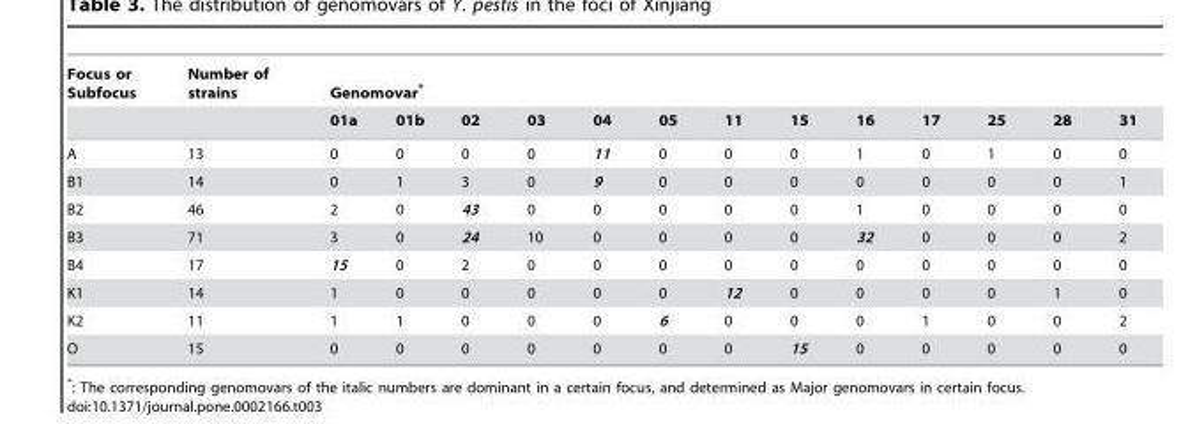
<table><thead><tr><td rowspan="2">Focus or Subfocus</td><td rowspan="2">Number of strains</td><td colspan="13">Genomovar*</td></tr><tr><td>01a</td><td>01b</td><td>02</td><td>03</td><td>04</td><td>05</td><td>11</td><td>15</td><td>16</td><td>17</td><td>25</td><td>28</td><td>31</td></tr></thead><tbody><tr><td>A</td><td>13</td><td>0</td><td>0</td><td>0</td><td>0</td><td>11</td><td>0</td><td>0</td><td>0</td><td>1</td><td>0</td><td>1</td><td>0</td><td>0</td></tr><tr><td>B1</td><td>14</td><td>0</td><td>1</td><td>3</td><td>0</td><td>9</td><td>0</td><td>0</td><td>0</td><td>0</td><td>0</td><td>0</td><td>0</td><td>1</td></tr><tr><td>B2</td><td>46</td><td>2</td><td>0</td><td>43</td><td>0</td><td>0</td><td>0</td><td>0</td><td>0</td><td>1</td><td>0</td><td>0</td><td>0</td><td>0</td></tr><tr><td>B3</td><td>71</td><td>3</td><td>0</td><td>24</td><td>10</td><td>0</td><td>0</td><td>0</td><td>0</td><td>32</td><td>0</td><td>0</td><td>0</td><td>2</td></tr><tr><td>B4</td><td>17</td><td>15</td><td>0</td><td>2</td><td>0</td><td>0</td><td>0</td><td>0</td><td>0</td><td>0</td><td>0</td><td>0</td><td>0</td><td>0</td></tr><tr><td>K1</td><td>14</td><td>1</td><td>0</td><td>0</td><td>0</td><td>0</td><td>0</td><td>12</td><td>0</td><td>0</td><td>0</td><td>0</td><td>1</td><td>0</td></tr><tr><td>K2</td><td>11</td><td>1</td><td>1</td><td>0</td><td>0</td><td>0</td><td>6</td><td>0</td><td>0</td><td>0</td><td>1</td><td>0</td><td>0</td><td>2</td></tr><tr><td>O</td><td>15</td><td>0</td><td>0</td><td>0</td><td>0</td><td>0</td><td>0</td><td>0</td><td>15</td><td>0</td><td>0</td><td>0</td><td>0</td><td>0</td></tr></tbody></table>